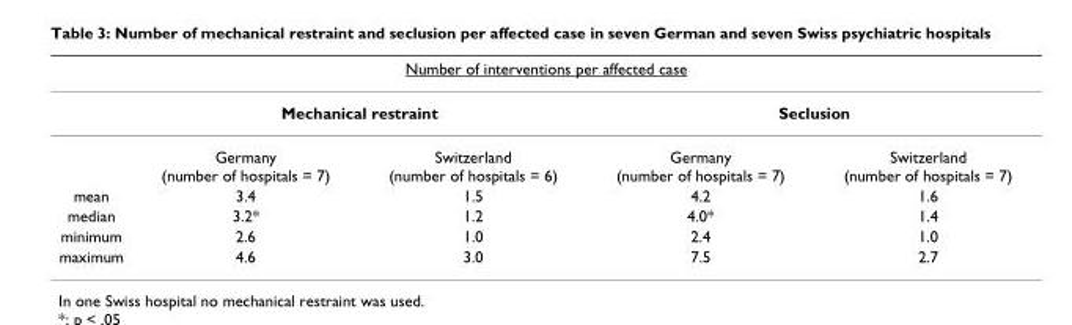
<table><thead><tr><td colspan="5">Number of interventions per affected case</td></tr><tr><td rowspan="2"></td><td colspan="2">Mechanical restraint</td><td colspan="2">Seclusion</td></tr><tr><td>Germany (number of hospitals = 7)</td><td>Switzerland (number of hospitals = 6)</td><td>Germany (number of hospitals = 7)</td><td>Switzerland (number of hospitals = 7)</td></tr></thead><tbody><tr><td>mean</td><td>3.4</td><td>1.5</td><td>4.2</td><td>1.6</td></tr><tr><td>median</td><td>3.2*</td><td>1.2</td><td>4.0*</td><td>1.4</td></tr><tr><td>minimum</td><td>2.6</td><td>1.0</td><td>2.4</td><td>1.0</td></tr><tr><td>maximum</td><td>4.6</td><td>3.0</td><td>7.5</td><td>2.7</td></tr></tbody></table>